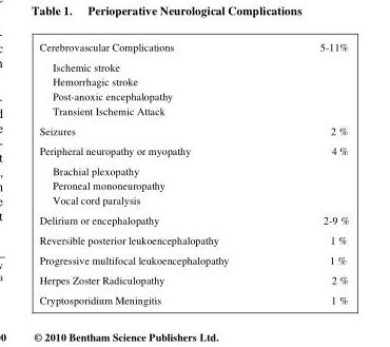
<table><tbody><tr><td>Cerebrovascular Complications</td><td>5-11%</td></tr><tr><td colspan="2">Ischemic stroke</td></tr><tr><td colspan="2">Hemorrhagic stroke</td></tr><tr><td colspan="2">Post-anoxic encephalopathy</td></tr><tr><td colspan="2">Transient Ischemic Attack</td></tr><tr><td>Seizures</td><td>2 %</td></tr><tr><td>Peripheral neuropathy or myopathy</td><td>4 %</td></tr><tr><td colspan="2">Brachial plexopathy</td></tr><tr><td colspan="2">Peroneal mononeuropathy</td></tr><tr><td colspan="2">Vocal cord paralysis</td></tr><tr><td>Delirium or encephalopathy</td><td>2-9 %</td></tr><tr><td>Reversible posterior leukoencephalopathy</td><td>1 %</td></tr><tr><td>Progressive multifocal leukoencephalopathy</td><td>1 %</td></tr><tr><td>Herpes Zoster Radiculopathy</td><td>2 %</td></tr><tr><td>Cryptosporidium Meningitis</td><td>1 %</td></tr></tbody></table>